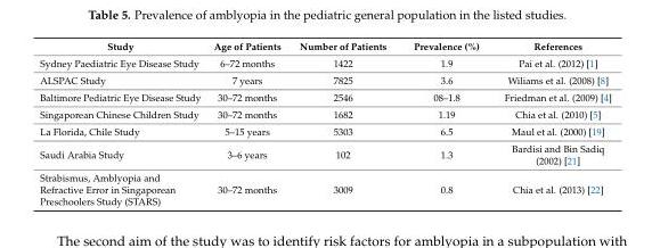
<table><thead><tr><td>Study</td><td>Age of Patients</td><td>Number of Patients</td><td>Prevalence (%)</td><td>References</td></tr></thead><tbody><tr><td>Sydney Paediatric Eye Disease Study</td><td>6–72 months</td><td>1422</td><td>1.9</td><td>Pai et al. (2012) [1]</td></tr><tr><td>ALSPAC Study</td><td>7 years</td><td>7825</td><td>3.6</td><td>Wiliams et al. (2008) [8]</td></tr><tr><td>Baltimore Pediatric Eye Disease Study</td><td>30–72 months</td><td>2546</td><td>08–1.8</td><td>Friedman et al. (2009) [4]</td></tr><tr><td>Singaporean Chinese Children Study</td><td>30–72 months</td><td>1682</td><td>1.19</td><td>Chia et al. (2010) [5]</td></tr><tr><td>La Florida, Chile Study</td><td>5–15 years</td><td>5303</td><td>6.5</td><td>Maul et al. (2000) [19]</td></tr><tr><td>Saudi Arabia Study</td><td>3–6 years</td><td>102</td><td>1.3</td><td>Bardisi and Bin Sadiq (2002) [21]</td></tr><tr><td>Strabismus, Amblyopia and Refractive Error in Singaporean Preschoolers Study (STARS)</td><td>30–72 months</td><td>3009</td><td>0.8</td><td>Chia et al. (2013) [22]</td></tr></tbody></table>